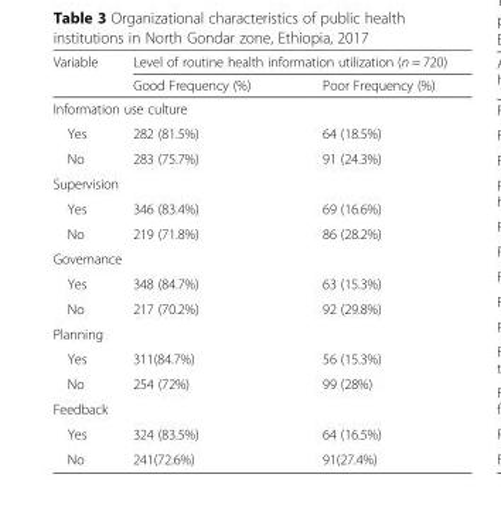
<table><thead><tr><td rowspan="2">Variable</td><td colspan="2">Level of routine health information utilization (n = 720)</td></tr><tr><td>Good Frequency (%)</td><td>Poor Frequency (%)</td></tr></thead><tbody><tr><td colspan="3">Information use culture</td></tr><tr><td>Yes</td><td>282 (81.5%)</td><td>64 (18.5%)</td></tr><tr><td>No</td><td>283 (75.7%)</td><td>91 (24.3%)</td></tr><tr><td colspan="3">Supervision</td></tr><tr><td>Yes</td><td>346 (83.4%)</td><td>69 (16.6%)</td></tr><tr><td>No</td><td>219 (71.8%)</td><td>86 (28.2%)</td></tr><tr><td colspan="3">Governance</td></tr><tr><td>Yes</td><td>348 (84.7%)</td><td>63 (15.3%)</td></tr><tr><td>No</td><td>217 (70.2%)</td><td>92 (29.8%)</td></tr><tr><td colspan="3">Planning</td></tr><tr><td>Yes</td><td>311(84.7%)</td><td>56 (15.3%)</td></tr><tr><td>No</td><td>254 (72%)</td><td>99 (28%)</td></tr><tr><td colspan="3">Feedback</td></tr><tr><td>Yes</td><td>324 (83.5%)</td><td>64 (16.5%)</td></tr><tr><td>No</td><td>241(72.6%)</td><td>91(27.4%)</td></tr></tbody></table>